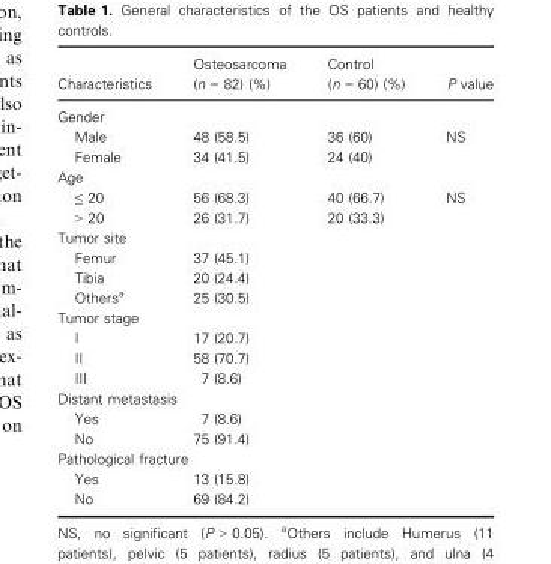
<table><thead><tr><td>Characteristics</td><td>Osteosarcoma (n = 82) (%)</td><td>Control (n = 60) (%)</td><td>P value</td></tr></thead><tbody><tr><td colspan="4">Gender</td></tr><tr><td>Male</td><td>48 (58.5)</td><td>36 (60)</td><td>NS</td></tr><tr><td>Female</td><td>34 (41.5)</td><td>24 (40)</td><td></td></tr><tr><td colspan="4">Age</td></tr><tr><td>≤ 20</td><td>56 (68.3)</td><td>40 (66.7)</td><td>NS</td></tr><tr><td>&gt; 20</td><td>26 (31.7)</td><td>20 (33.3)</td><td></td></tr><tr><td colspan="4">Tumor site</td></tr><tr><td>Femur</td><td>37 (45.1)</td><td></td><td></td></tr><tr><td>Tibia</td><td>20 (24.4)</td><td></td><td></td></tr><tr><td>Others<sup>a</sup></td><td>25 (30.5)</td><td></td><td></td></tr><tr><td colspan="4">Tumor stage</td></tr><tr><td>I</td><td>17 (20.7)</td><td></td><td></td></tr><tr><td>II</td><td>58 (70.7)</td><td></td><td></td></tr><tr><td>III</td><td>7 (8.6)</td><td></td><td></td></tr><tr><td colspan="4">Distant metastasis</td></tr><tr><td>Yes</td><td>7 (8.6)</td><td></td><td></td></tr><tr><td>No</td><td>75 (91.4)</td><td></td><td></td></tr><tr><td colspan="4">Pathological fracture</td></tr><tr><td>Yes</td><td>13 (15.8)</td><td></td><td></td></tr><tr><td>No</td><td>69 (84.2)</td><td></td><td></td></tr></tbody></table>